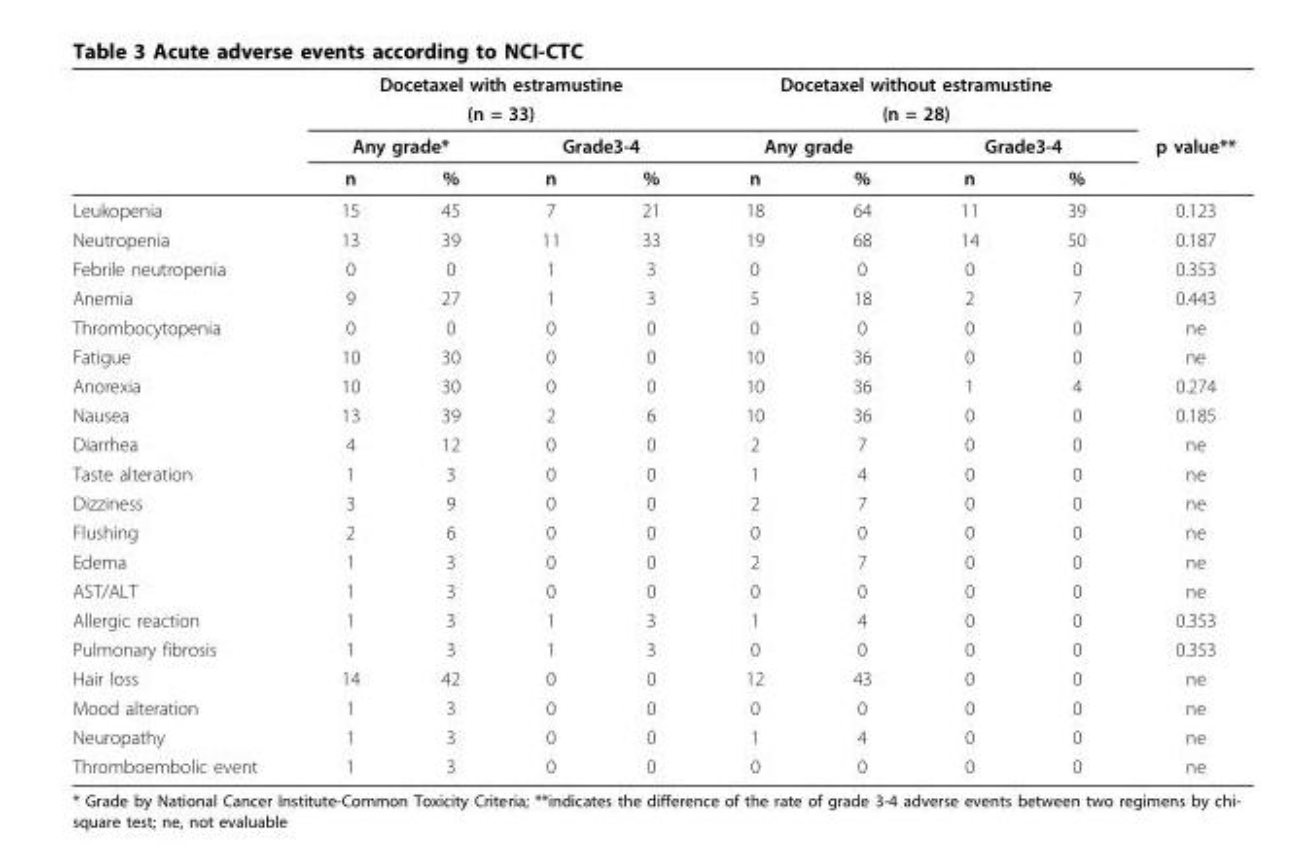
<table><thead><tr><td rowspan="4"></td><td rowspan="2" colspan="4">Docetaxel with estramustine (n = 33)</td><td rowspan="2" colspan="4">Docetaxel without estramustine (n = 28)</td><td rowspan="4">p value**</td></tr><tr></tr><tr><td colspan="2">Any grade*</td><td colspan="2">Grade3-4</td><td colspan="2">Any grade</td><td colspan="2">Grade3-4</td></tr><tr><td>n</td><td>%</td><td>n</td><td>%</td><td>n</td><td>%</td><td>n</td><td>%</td></tr></thead><tbody><tr><td>Leukopenia</td><td>15</td><td>45</td><td>7</td><td>21</td><td>18</td><td>64</td><td>11</td><td>39</td><td>0.123</td></tr><tr><td>Neutropenia</td><td>13</td><td>39</td><td>11</td><td>33</td><td>19</td><td>68</td><td>14</td><td>50</td><td>0.187</td></tr><tr><td>Febrile neutropenia</td><td>0</td><td>0</td><td>1</td><td>3</td><td>0</td><td>0</td><td>0</td><td>0</td><td>0.353</td></tr><tr><td>Anemia</td><td>9</td><td>27</td><td>1</td><td>3</td><td>5</td><td>18</td><td>2</td><td>7</td><td>0.443</td></tr><tr><td>Thrombocytopenia</td><td>0</td><td>0</td><td>0</td><td>0</td><td>0</td><td>0</td><td>0</td><td>0</td><td>ne</td></tr><tr><td>Fatigue</td><td>10</td><td>30</td><td>0</td><td>0</td><td>10</td><td>36</td><td>0</td><td>0</td><td>ne</td></tr><tr><td>Anorexia</td><td>10</td><td>30</td><td>0</td><td>0</td><td>10</td><td>36</td><td>1</td><td>4</td><td>0.274</td></tr><tr><td>Nausea</td><td>13</td><td>39</td><td>2</td><td>6</td><td>10</td><td>36</td><td>0</td><td>0</td><td>0.185</td></tr><tr><td>Diarrhea</td><td>4</td><td>12</td><td>0</td><td>0</td><td>2</td><td>7</td><td>0</td><td>0</td><td>ne</td></tr><tr><td>Taste alteration</td><td>1</td><td>3</td><td>0</td><td>0</td><td>1</td><td>4</td><td>0</td><td>0</td><td>ne</td></tr><tr><td>Dizziness</td><td>3</td><td>9</td><td>0</td><td>0</td><td>2</td><td>7</td><td>0</td><td>0</td><td>ne</td></tr><tr><td>Flushing</td><td>2</td><td>6</td><td>0</td><td>0</td><td>0</td><td>0</td><td>0</td><td>0</td><td>ne</td></tr><tr><td>Edema</td><td>1</td><td>3</td><td>0</td><td>0</td><td>2</td><td>7</td><td>0</td><td>0</td><td>ne</td></tr><tr><td>AST/ALT</td><td>1</td><td>3</td><td>0</td><td>0</td><td>0</td><td>0</td><td>0</td><td>0</td><td>ne</td></tr><tr><td>Allergic reaction</td><td>1</td><td>3</td><td>1</td><td>3</td><td>1</td><td>4</td><td>0</td><td>0</td><td>0.353</td></tr><tr><td>Pulmonary fibrosis</td><td>1</td><td>3</td><td>1</td><td>3</td><td>0</td><td>0</td><td>0</td><td>0</td><td>0.353</td></tr><tr><td>Hair loss</td><td>14</td><td>42</td><td>0</td><td>0</td><td>12</td><td>43</td><td>0</td><td>0</td><td>ne</td></tr><tr><td>Mood alteration</td><td>1</td><td>3</td><td>0</td><td>0</td><td>0</td><td>0</td><td>0</td><td>0</td><td>ne</td></tr><tr><td>Neuropathy</td><td>1</td><td>3</td><td>0</td><td>0</td><td>1</td><td>4</td><td>0</td><td>0</td><td>ne</td></tr><tr><td>Thromboembolic event</td><td>1</td><td>3</td><td>0</td><td>0</td><td>0</td><td>0</td><td>0</td><td>0</td><td>ne</td></tr></tbody></table>